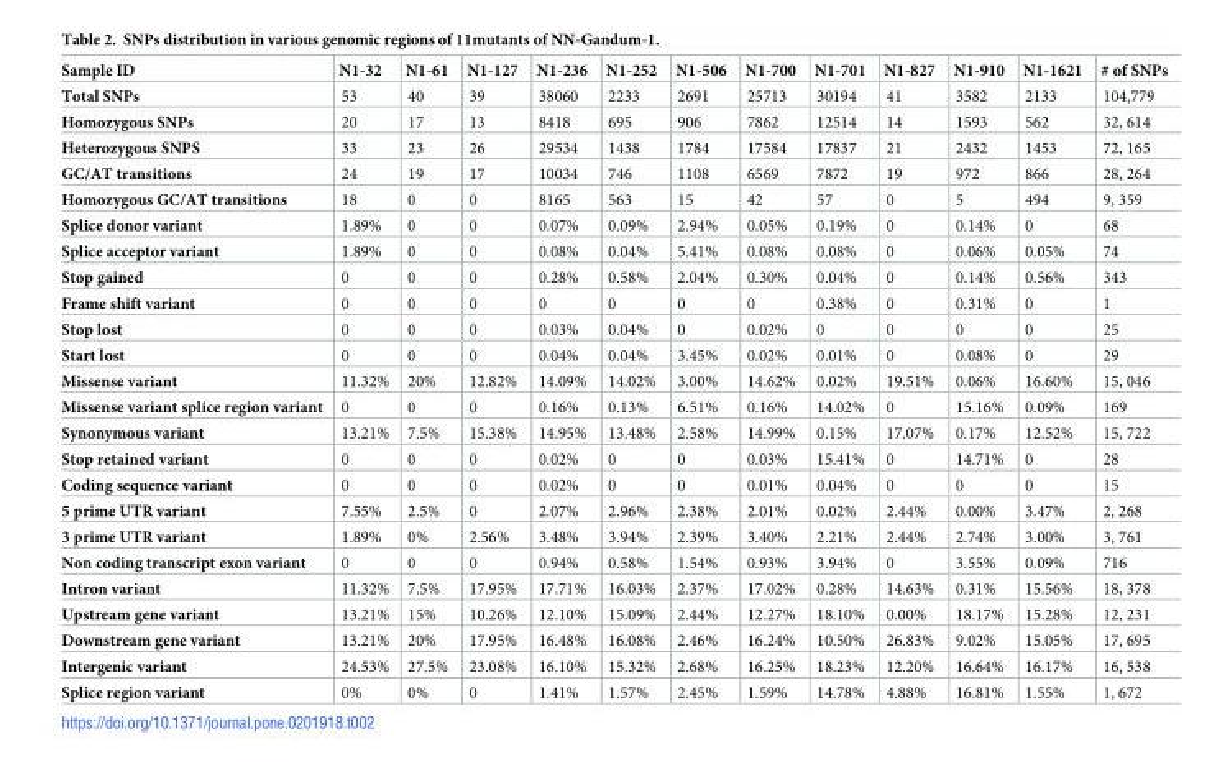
<table><thead><tr><td>Sample ID</td><td>N1-32</td><td>N1-61</td><td>N1-127</td><td>N1-236</td><td>N1-252</td><td>N1-506</td><td>N1-700</td><td>N1-701</td><td>N1-827</td><td>N1-910</td><td>N1-1621</td><td># of SNPs</td></tr></thead><tbody><tr><td>Total SNPs</td><td>53</td><td>40</td><td>39</td><td>38060</td><td>2233</td><td>2691</td><td>25713</td><td>30194</td><td>41</td><td>3582</td><td>2133</td><td>104,779</td></tr><tr><td>Homozygous SNPs</td><td>20</td><td>17</td><td>13</td><td>8418</td><td>695</td><td>906</td><td>7862</td><td>12514</td><td>14</td><td>1593</td><td>562</td><td>32, 614</td></tr><tr><td>Heterozygous SNPS</td><td>33</td><td>23</td><td>26</td><td>29534</td><td>1438</td><td>1784</td><td>17584</td><td>17837</td><td>21</td><td>2432</td><td>1453</td><td>72, 165</td></tr><tr><td>GC/AT transitions</td><td>24</td><td>19</td><td>17</td><td>10034</td><td>746</td><td>1108</td><td>6569</td><td>7872</td><td>19</td><td>972</td><td>866</td><td>28, 264</td></tr><tr><td>Homozygous GC/AT transitions</td><td>18</td><td>0</td><td>0</td><td>8165</td><td>563</td><td>15</td><td>42</td><td>57</td><td>0</td><td>5</td><td>494</td><td>9, 359</td></tr><tr><td>Splice donor variant</td><td>1.89%</td><td>0</td><td>0</td><td>0.07%</td><td>0.09%</td><td>2.94%</td><td>0.05%</td><td>0.19%</td><td>0</td><td>0.14%</td><td>0</td><td>68</td></tr><tr><td>Splice acceptor variant</td><td>1.89%</td><td>0</td><td>0</td><td>0.08%</td><td>0.04%</td><td>5.41%</td><td>0.08%</td><td>0.08%</td><td>0</td><td>0.06%</td><td>0.05%</td><td>74</td></tr><tr><td>Stop gained</td><td>0</td><td>0</td><td>0</td><td>0.28%</td><td>0.58%</td><td>2.04%</td><td>0.30%</td><td>0.04%</td><td>0</td><td>0.14%</td><td>0.56%</td><td>343</td></tr><tr><td>Frame shift variant</td><td>0</td><td>0</td><td>0</td><td>0</td><td>0</td><td>0</td><td>0</td><td>0.38%</td><td>0</td><td>0.31%</td><td>0</td><td>1</td></tr><tr><td>Stop lost</td><td>0</td><td>0</td><td>0</td><td>0.03%</td><td>0.04%</td><td>0</td><td>0.02%</td><td>0</td><td>0</td><td>0</td><td>0</td><td>25</td></tr><tr><td>Start lost</td><td>0</td><td>0</td><td>0</td><td>0.04%</td><td>0.04%</td><td>3.45%</td><td>0.02%</td><td>0.01%</td><td>0</td><td>0.08%</td><td>0</td><td>29</td></tr><tr><td>Missense variant</td><td>11.32%</td><td>20%</td><td>12.82%</td><td>14.09%</td><td>14.02%</td><td>3.00%</td><td>14.62%</td><td>0.02%</td><td>19.51%</td><td>0.06%</td><td>16.60%</td><td>15, 046</td></tr><tr><td>Missense variant splice region variant</td><td>0</td><td>0</td><td>0</td><td>0.16%</td><td>0.13%</td><td>6.51%</td><td>0.16%</td><td>14.02%</td><td>0</td><td>15.16%</td><td>0.09%</td><td>169</td></tr><tr><td>Synonymous variant</td><td>13.21%</td><td>7.5%</td><td>15.38%</td><td>14.95%</td><td>13.48%</td><td>2.58%</td><td>14.99%</td><td>0.15%</td><td>17.07%</td><td>0.17%</td><td>12.52%</td><td>15, 722</td></tr><tr><td>Stop retained variant</td><td>0</td><td>0</td><td>0</td><td>0.02%</td><td>0</td><td>0</td><td>0.03%</td><td>15.41%</td><td>0</td><td>14.71%</td><td>0</td><td>28</td></tr><tr><td>Coding sequence variant</td><td>0</td><td>0</td><td>0</td><td>0.02%</td><td>0</td><td>0</td><td>0.01%</td><td>0.04%</td><td>0</td><td>0</td><td>0</td><td>15</td></tr><tr><td>5 prime UTR variant</td><td>7.55%</td><td>2.5%</td><td>0</td><td>2.07%</td><td>2.96%</td><td>2.38%</td><td>2.01%</td><td>0.02%</td><td>2.44%</td><td>0.00%</td><td>3.47%</td><td>2, 268</td></tr><tr><td>3 prime UTR variant</td><td>1.89%</td><td>0%</td><td>2.56%</td><td>3.48%</td><td>3.94%</td><td>2.39%</td><td>3.40%</td><td>2.21%</td><td>2.44%</td><td>2.74%</td><td>3.00%</td><td>3, 761</td></tr><tr><td>Non coding transcript exon variant</td><td>0</td><td>0</td><td>0</td><td>0.94%</td><td>0.58%</td><td>1.54%</td><td>0.93%</td><td>3.94%</td><td>0</td><td>3.55%</td><td>0.09%</td><td>716</td></tr><tr><td>Intron variant</td><td>11.32%</td><td>7.5%</td><td>17.95%</td><td>17.71%</td><td>16.03%</td><td>2.37%</td><td>17.02%</td><td>0.28%</td><td>14.63%</td><td>0.31%</td><td>15.56%</td><td>18, 378</td></tr><tr><td>Upstream gene variant</td><td>13.21%</td><td>15%</td><td>10.26%</td><td>12.10%</td><td>15.09%</td><td>2.44%</td><td>12.27%</td><td>18.10%</td><td>0.00%</td><td>18.17%</td><td>15.28%</td><td>12, 231</td></tr><tr><td>Downstream gene variant</td><td>13.21%</td><td>20%</td><td>17.95%</td><td>16.48%</td><td>16.08%</td><td>2.46%</td><td>16.24%</td><td>10.50%</td><td>26.83%</td><td>9.02%</td><td>15.05%</td><td>17, 695</td></tr><tr><td>Intergenic variant</td><td>24.53%</td><td>27.5%</td><td>23.08%</td><td>16.10%</td><td>15.32%</td><td>2.68%</td><td>16.25%</td><td>18.23%</td><td>12.20%</td><td>16.64%</td><td>16.17%</td><td>16, 538</td></tr><tr><td>Splice region variant</td><td>0%</td><td>0%</td><td>0</td><td>1.41%</td><td>1.57%</td><td>2.45%</td><td>1.59%</td><td>14.78%</td><td>4.88%</td><td>16.81%</td><td>1.55%</td><td>1, 672</td></tr></tbody></table>